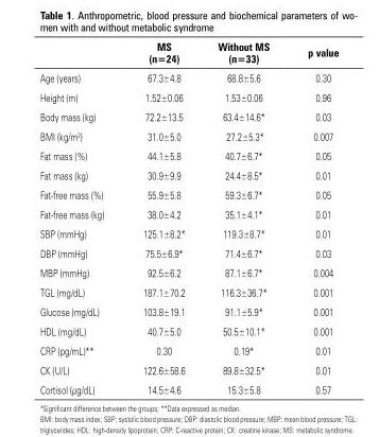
<table><thead><tr><td></td><td>MS (n=24)</td><td>Without MS (n=33)</td><td>p value</td></tr></thead><tbody><tr><td>Age (years)</td><td>67.3±4.8</td><td>68.8±5.6</td><td>0.30</td></tr><tr><td>Height (m)</td><td>1.52±0.06</td><td>1.53±0.06</td><td>0.96</td></tr><tr><td>Body mass (kg)</td><td>72.2±13.5</td><td>63.4±14.6*</td><td>0.03</td></tr><tr><td>BMI (kg/m<sup>2</sup>)</td><td>31.0±5.0</td><td>27.2±5.3*</td><td>0.007</td></tr><tr><td>Fat mass (%)</td><td>44.1±5.8</td><td>40.7±6.7*</td><td>0.05</td></tr><tr><td>Fat mass (kg)</td><td>30.9±9.9</td><td>24.4±8.5*</td><td>0.01</td></tr><tr><td>Fat-free mass (%)</td><td>55.9±5.8</td><td>59.3±6.7*</td><td>0.05</td></tr><tr><td>Fat-free mass (kg)</td><td>38.0±4.2</td><td>35.1±4.1*</td><td>0.01</td></tr><tr><td>SBP (mmHg)</td><td>125.1±8.2*</td><td>119.3±8.7*</td><td>0.01</td></tr><tr><td>DBP (mmHg)</td><td>75.5±6.9*</td><td>71.4±6.7*</td><td>0.03</td></tr><tr><td>MBP (mmHg)</td><td>92.5±6.2</td><td>87.1±6.7*</td><td>0.004</td></tr><tr><td>TGL (mg/dL)</td><td>187.1±70.2</td><td>116.3±36.7*</td><td>0.001</td></tr><tr><td>Glucose (mg/dL)</td><td>103.8±19.1</td><td>91.1±5.9*</td><td>0.001</td></tr><tr><td>HDL (mg/dL)</td><td>40.7±5.0</td><td>50.5±10.1*</td><td>0.001</td></tr><tr><td>CRP (pg/mL)**</td><td>0.30</td><td>0.19*</td><td>0.01</td></tr><tr><td>CK (U/L)</td><td>122.6±58.6</td><td>89.8±32.5*</td><td>0.01</td></tr><tr><td>Cortisol (µg/dL)</td><td>14.5±4.6</td><td>15.3±5.8</td><td>0.57</td></tr></tbody></table>